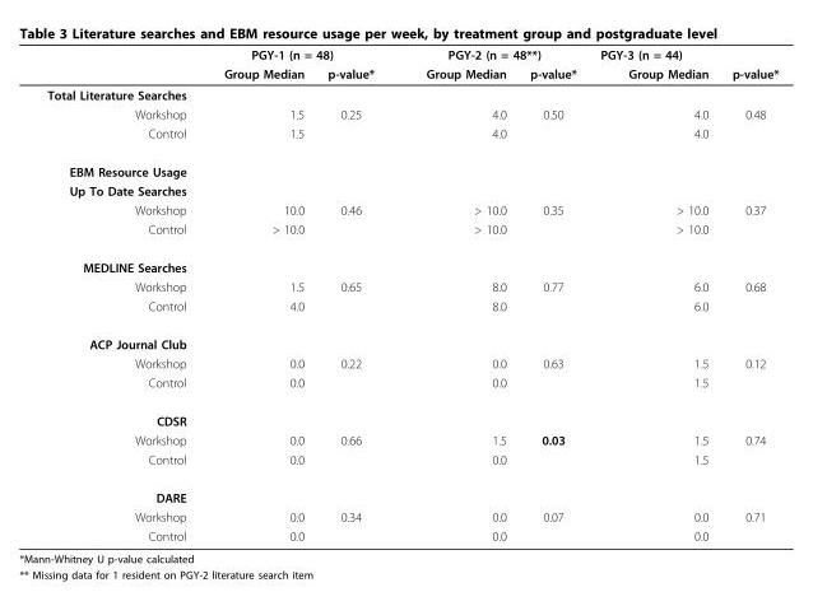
<table><thead><tr><td rowspan="2"></td><td colspan="2">PGY-1 (n = 48)</td><td colspan="2">PGY-2 (n = 48**)</td><td colspan="2">PGY-3 (n = 44)</td></tr><tr><td>Group Median</td><td>p-value*</td><td>Group Median</td><td>p-value*</td><td>Group Median</td><td>p-value*</td></tr></thead><tbody><tr><td colspan="7">Total Literature Searches</td></tr><tr><td>Workshop</td><td>1.5</td><td>0.25</td><td>4.0</td><td>0.50</td><td>4.0</td><td>0.48</td></tr><tr><td>Control</td><td>1.5</td><td></td><td>4.0</td><td></td><td>4.0</td><td></td></tr><tr><td colspan="7">EBM Resource Usage</td></tr><tr><td colspan="7">Up To Date Searches</td></tr><tr><td>Workshop</td><td>10.0</td><td>0.46</td><td>&gt; 10.0</td><td>0.35</td><td>&gt; 10.0</td><td>0.37</td></tr><tr><td>Control</td><td>&gt; 10.0</td><td></td><td>&gt; 10.0</td><td></td><td>&gt; 10.0</td><td></td></tr><tr><td colspan="7">MEDLINE Searches</td></tr><tr><td>Workshop</td><td>1.5</td><td>0.65</td><td>8.0</td><td>0.77</td><td>6.0</td><td>0.68</td></tr><tr><td>Control</td><td>4.0</td><td></td><td>8.0</td><td></td><td>6.0</td><td></td></tr><tr><td colspan="7">ACP Journal Club</td></tr><tr><td>Workshop</td><td>0.0</td><td>0.22</td><td>0.0</td><td>0.63</td><td>1.5</td><td>0.12</td></tr><tr><td>Control</td><td>0.0</td><td></td><td>0.0</td><td></td><td>1.5</td><td></td></tr><tr><td colspan="7">CDSR</td></tr><tr><td>Workshop</td><td>0.0</td><td>0.66</td><td>1.5</td><td>0.03</td><td>1.5</td><td>0.74</td></tr><tr><td>Control</td><td>0.0</td><td></td><td>0.0</td><td></td><td>1.5</td><td></td></tr><tr><td colspan="7">DARE</td></tr><tr><td>Workshop</td><td>0.0</td><td>0.34</td><td>0.0</td><td>0.07</td><td>0.0</td><td>0.71</td></tr><tr><td>Control</td><td>0.0</td><td></td><td>0.0</td><td></td><td>0.0</td><td></td></tr></tbody></table>